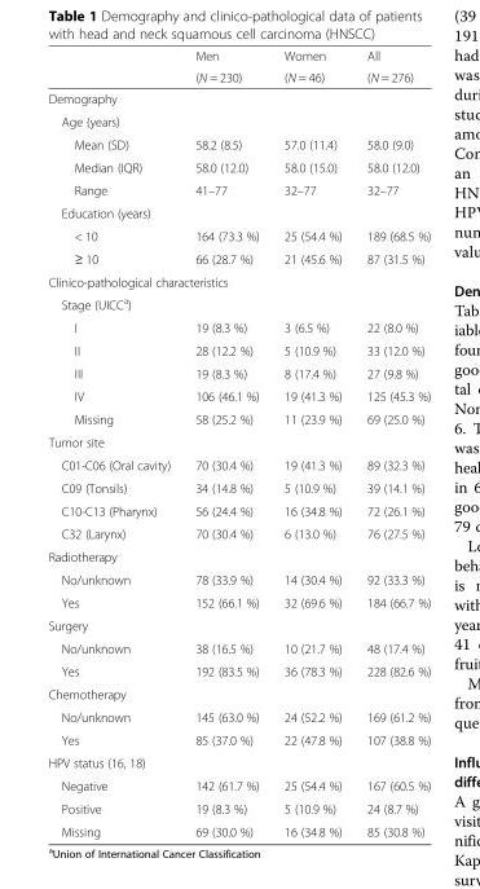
<table><thead><tr><td rowspan="2"></td><td rowspan="2">Men (N = 230)</td><td rowspan="2">Women (N = 46)</td><td rowspan="2">All (N = 276)</td></tr><tr></tr></thead><tbody><tr><td colspan="4">Demography</td></tr><tr><td colspan="4">Age (years)</td></tr><tr><td>Mean (SD)</td><td>58.2 (8.5)</td><td>57.0 (11.4)</td><td>58.0 (9.0)</td></tr><tr><td>Median (IQR)</td><td>58.0 (12.0)</td><td>58.0 (15.0)</td><td>58.0 (12.0)</td></tr><tr><td>Range</td><td>41–77</td><td>32–77</td><td>32–77</td></tr><tr><td colspan="4">Education (years)</td></tr><tr><td>&lt; 10</td><td>164 (73.3 %)</td><td>25 (54.4 %)</td><td>189 (68.5 %)</td></tr><tr><td>≥ 10</td><td>66 (28.7 %)</td><td>21 (45.6 %)</td><td>87 (31.5 %)</td></tr><tr><td colspan="4">Clinico-pathological characteristics</td></tr><tr><td colspan="4">Stage (UICC<sup>a</sup>)</td></tr><tr><td>I</td><td>19 (8.3 %)</td><td>3 (6.5 %)</td><td>22 (8.0 %)</td></tr><tr><td>II</td><td>28 (12.2 %)</td><td>5 (10.9 %)</td><td>33 (12.0 %)</td></tr><tr><td>III</td><td>19 (8.3 %)</td><td>8 (17.4 %)</td><td>27 (9.8 %)</td></tr><tr><td>IV</td><td>106 (46.1 %)</td><td>19 (41.3 %)</td><td>125 (45.3 %)</td></tr><tr><td>Missing</td><td>58 (25.2 %)</td><td>11 (23.9 %)</td><td>69 (25.0 %)</td></tr><tr><td colspan="4">Tumor site</td></tr><tr><td>C01-C06 (Oral cavity)</td><td>70 (30.4 %)</td><td>19 (41.3 %)</td><td>89 (32.3 %)</td></tr><tr><td>C09 (Tonsils)</td><td>34 (14.8 %)</td><td>5 (10.9 %)</td><td>39 (14.1 %)</td></tr><tr><td>C10-C13 (Pharynx)</td><td>56 (24.4 %)</td><td>16 (34.8 %)</td><td>72 (26.1 %)</td></tr><tr><td>C32 (Larynx)</td><td>70 (30.4 %)</td><td>6 (13.0 %)</td><td>76 (27.5 %)</td></tr><tr><td colspan="4">Radiotherapy</td></tr><tr><td>No/unknown</td><td>78 (33.9 %)</td><td>14 (30.4 %)</td><td>92 (33.3 %)</td></tr><tr><td>Yes</td><td>152 (66.1 %)</td><td>32 (69.6 %)</td><td>184 (66.7 %)</td></tr><tr><td colspan="4">Surgery</td></tr><tr><td>No/unknown</td><td>38 (16.5 %)</td><td>10 (21.7 %)</td><td>48 (17.4 %)</td></tr><tr><td>Yes</td><td>192 (83.5 %)</td><td>36 (78.3 %)</td><td>228 (82.6 %)</td></tr><tr><td colspan="4">Chemotherapy</td></tr><tr><td>No/unknown</td><td>145 (63.0 %)</td><td>24 (52.2 %)</td><td>169 (61.2 %)</td></tr><tr><td>Yes</td><td>85 (37.0 %)</td><td>22 (47.8 %)</td><td>107 (38.8 %)</td></tr><tr><td colspan="4">HPV status (16, 18)</td></tr><tr><td>Negative</td><td>142 (61.7 %)</td><td>25 (54.4 %)</td><td>167 (60.5 %)</td></tr><tr><td>Positive</td><td>19 (8.3 %)</td><td>5 (10.9 %)</td><td>24 (8.7 %)</td></tr><tr><td>Missing</td><td>69 (30.0 %)</td><td>16 (34.8 %)</td><td>85 (30.8 %)</td></tr></tbody></table>